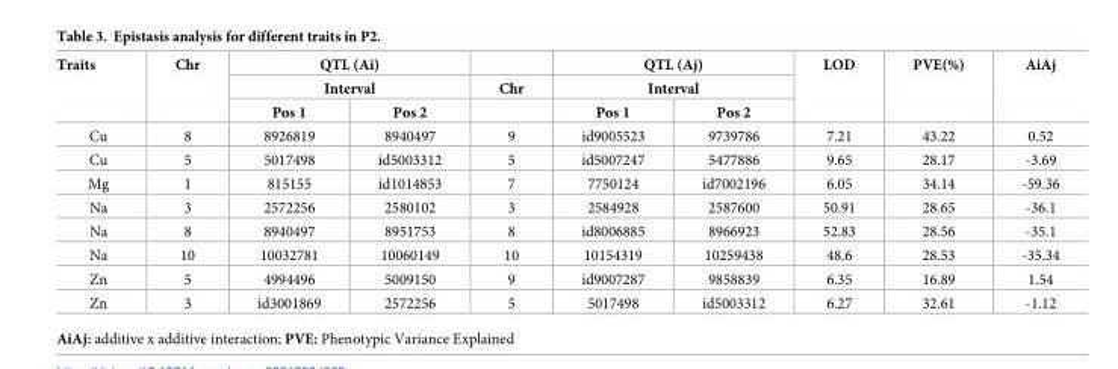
<table><thead><tr><td rowspan="3">Traits</td><td rowspan="3">Chr</td><td rowspan="2" colspan="2">QTL (Ai) Interval</td><td rowspan="3">Chr</td><td rowspan="2" colspan="2">QTL (Aj) Interval</td><td rowspan="3">LOD</td><td rowspan="3">PVE(%)</td><td rowspan="3">AiAj</td></tr><tr></tr><tr><td>Pos 1</td><td>Pos 2</td><td>Pos 1</td><td>Pos 2</td></tr></thead><tbody><tr><td>Cu</td><td>8</td><td>8926819</td><td>8940497</td><td>9</td><td>id9005523</td><td>9739786</td><td>7.21</td><td>43.22</td><td>0.52</td></tr><tr><td>Cu</td><td>5</td><td>5017498</td><td>id5003312</td><td>5</td><td>id5007247</td><td>5477886</td><td>9.65</td><td>28.17</td><td>-3.69</td></tr><tr><td>Mg</td><td>1</td><td>815155</td><td>id1014853</td><td>7</td><td>7750124</td><td>id7002196</td><td>6.05</td><td>34.14</td><td>-59.36</td></tr><tr><td>Na</td><td>3</td><td>2572256</td><td>2580102</td><td>3</td><td>2584928</td><td>2587600</td><td>50.91</td><td>28.65</td><td>-36.1</td></tr><tr><td>Na</td><td>8</td><td>8940497</td><td>8951753</td><td>8</td><td>id8006885</td><td>8966923</td><td>52.83</td><td>28.56</td><td>-35.1</td></tr><tr><td>Na</td><td>10</td><td>10032781</td><td>10060149</td><td>10</td><td>10154319</td><td>10259438</td><td>48.6</td><td>28.53</td><td>-35.34</td></tr><tr><td>Zn</td><td>5</td><td>4994496</td><td>5009150</td><td>9</td><td>id9007287</td><td>9858839</td><td>6.35</td><td>16.89</td><td>1.54</td></tr><tr><td>Zn</td><td>3</td><td>id3001869</td><td>2572256</td><td>5</td><td>5017498</td><td>id5003312</td><td>6.27</td><td>32.61</td><td>-1.12</td></tr></tbody></table>